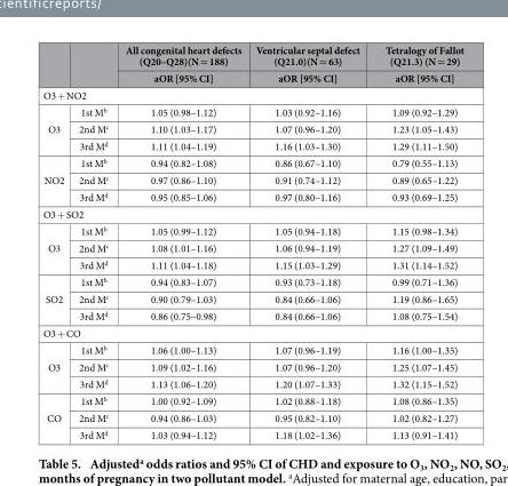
<table><thead><tr><td rowspan="2"></td><td rowspan="2"></td><td rowspan="2">All congenital heart defects (Q20–Q28)(N = 188) aOR [95% CI]</td><td rowspan="2">Ventricular septal defect (Q21.0)(N = 63) aOR [95% CI]</td><td rowspan="2">Tetralogy of Fallot (Q21.3) (N = 29) aOR [95% CI]</td></tr><tr></tr></thead><tbody><tr><td colspan="5">O3 + NO2</td></tr><tr><td rowspan="3">O3</td><td>1st M<sup>b</sup></td><td>1.05 (0.98–1.12)</td><td>1.03 (0.92–1.16)</td><td>1.09 (0.92–1.29)</td></tr><tr><td>2nd M<sup>c</sup></td><td>1.10 (1.03–1.17)</td><td>1.07 (0.96–1.20)</td><td>1.23 (1.05–1.43)</td></tr><tr><td>3rd M<sup>d</sup></td><td>1.11 (1.04–1.19)</td><td>1.16 (1.03–1.30)</td><td>1.29 (1.11–1.50)</td></tr><tr><td rowspan="3">NO2</td><td>1st M<sup>b</sup></td><td>0.94 (0.82–1.08)</td><td>0.86 (0.67–1.10)</td><td>0.79 (0.55–1.13)</td></tr><tr><td>2nd M<sup>c</sup></td><td>0.97 (0.86–1.10)</td><td>0.91 (0.74–1.12)</td><td>0.89 (0.65–1.22)</td></tr><tr><td>3rd M<sup>d</sup></td><td>0.95 (0.85–1.06)</td><td>0.97 (0.80–1.16)</td><td>0.93 (0.69–1.25)</td></tr><tr><td colspan="5">O3 + SO2</td></tr><tr><td rowspan="3">O3</td><td>1st M<sup>b</sup></td><td>1.05 (0.99–1.12)</td><td>1.05 (0.94–1.18)</td><td>1.15 (0.98–1.34)</td></tr><tr><td>2nd M<sup>c</sup></td><td>1.08 (1.01–1.16)</td><td>1.06 (0.94–1.19)</td><td>1.27 (1.09–1.49)</td></tr><tr><td>3rd M<sup>d</sup></td><td>1.11 (1.04–1.18)</td><td>1.15 (1.03–1.29)</td><td>1.31 (1.14–1.52)</td></tr><tr><td rowspan="3">SO2</td><td>1st M<sup>b</sup></td><td>0.94 (0.83–1.07)</td><td>0.93 (0.73–1.18)</td><td>0.99 (0.71–1.36)</td></tr><tr><td>2nd M<sup>c</sup></td><td>0.90 (0.79–1.03)</td><td>0.84 (0.66–1.06)</td><td>1.19 (0.86–1.65)</td></tr><tr><td>3rd M<sup>d</sup></td><td>0.86 (0.75–0.98)</td><td>0.84 (0.66–1.06)</td><td>1.08 (0.75–1.54)</td></tr><tr><td colspan="5">O3 + CO</td></tr><tr><td rowspan="3">O3</td><td>1st M<sup>b</sup></td><td>1.06 (1.00–1.13)</td><td>1.07 (0.96–1.19)</td><td>1.16 (1.00–1.35)</td></tr><tr><td>2nd M<sup>c</sup></td><td>1.09 (1.02–1.16)</td><td>1.07 (0.96–1.20)</td><td>1.25 (1.07–1.45)</td></tr><tr><td>3rd M<sup>d</sup></td><td>1.13 (1.06–1.20)</td><td>1.20 (1.07–1.33)</td><td>1.32 (1.15–1.52)</td></tr><tr><td rowspan="3">CO</td><td>1st M<sup>b</sup></td><td>1.00 (0.92–1.09)</td><td>1.02 (0.88–1.18)</td><td>1.08 (0.86–1.35)</td></tr><tr><td>2nd M<sup>c</sup></td><td>0.94 (0.86–1.03)</td><td>0.95 (0.82–1.10)</td><td>1.02 (0.82–1.27)</td></tr><tr><td>3rd M<sup>d</sup></td><td>1.03 (0.94–1.12)</td><td>1.18 (1.02–1.36)</td><td>1.13 (0.91–1.41)</td></tr></tbody></table>